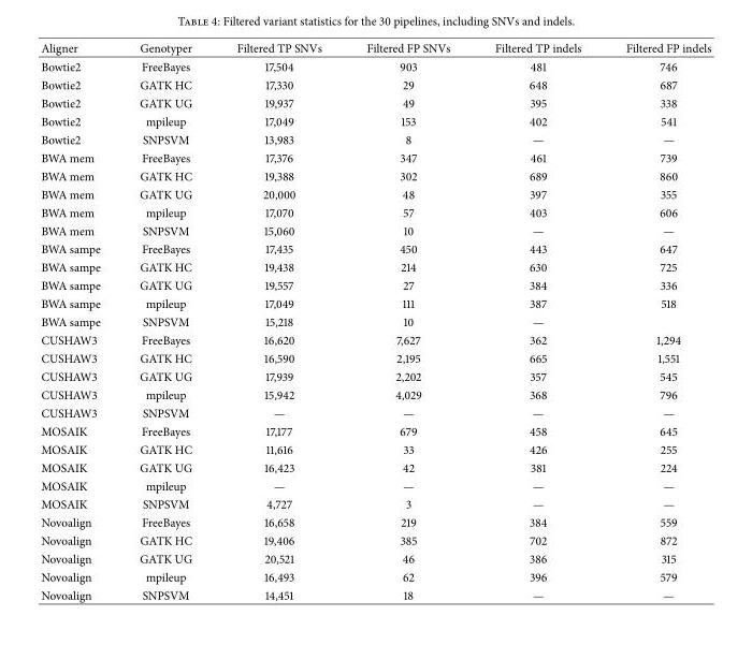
<table><thead><tr><td>Aligner</td><td>Genotyper</td><td>Filtered TP SNVs</td><td>Filtered FP SNVs</td><td>Filtered TP indels</td><td>Filtered FP indels</td></tr></thead><tbody><tr><td>Bowtie2</td><td>FreeBayes</td><td>17,504</td><td>903</td><td>481</td><td>746</td></tr><tr><td>Bowtie2</td><td>GATK HC</td><td>17,330</td><td>29</td><td>648</td><td>687</td></tr><tr><td>Bowtie2</td><td>GATK UG</td><td>19,937</td><td>49</td><td>395</td><td>338</td></tr><tr><td>Bowtie2</td><td>mpileup</td><td>17,049</td><td>153</td><td>402</td><td>541</td></tr><tr><td>Bowtie2</td><td>SNPSVM</td><td>13,983</td><td>8</td><td>—</td><td>—</td></tr><tr><td>BWA mem</td><td>FreeBayes</td><td>17,376</td><td>347</td><td>461</td><td>739</td></tr><tr><td>BWA mem</td><td>GATK HC</td><td>19,388</td><td>302</td><td>689</td><td>860</td></tr><tr><td>BWA mem</td><td>GATK UG</td><td>20,000</td><td>48</td><td>397</td><td>355</td></tr><tr><td>BWA mem</td><td>mpileup</td><td>17,070</td><td>57</td><td>403</td><td>606</td></tr><tr><td>BWA mem</td><td>SNPSVM</td><td>15,060</td><td>10</td><td>—</td><td>—</td></tr><tr><td>BWA sampe</td><td>FreeBayes</td><td>17,435</td><td>450</td><td>443</td><td>647</td></tr><tr><td>BWA sampe</td><td>GATK HC</td><td>19,438</td><td>214</td><td>630</td><td>725</td></tr><tr><td>BWA sampe</td><td>GATK UG</td><td>19,557</td><td>27</td><td>384</td><td>336</td></tr><tr><td>BWA sampe</td><td>mpileup</td><td>17,049</td><td>111</td><td>387</td><td>518</td></tr><tr><td>BWA sampe</td><td>SNPSVM</td><td>15,218</td><td>10</td><td>—</td><td></td></tr><tr><td>CUSHAW3</td><td>FreeBayes</td><td>16,620</td><td>7,627</td><td>362</td><td>1,294</td></tr><tr><td>CUSHAW3</td><td>GATK HC</td><td>16,590</td><td>2,195</td><td>665</td><td>1,551</td></tr><tr><td>CUSHAW3</td><td>GATK UG</td><td>17,939</td><td>2,202</td><td>357</td><td>545</td></tr><tr><td>CUSHAW3</td><td>mpileup</td><td>15,942</td><td>4,029</td><td>368</td><td>796</td></tr><tr><td>CUSHAW3</td><td>SNPSVM</td><td>—</td><td>—</td><td>—</td><td>—</td></tr><tr><td>MOSAIK</td><td>FreeBayes</td><td>17,177</td><td>679</td><td>458</td><td>645</td></tr><tr><td>MOSAIK</td><td>GATK HC</td><td>11,616</td><td>33</td><td>426</td><td>255</td></tr><tr><td>MOSAIK</td><td>GATK UG</td><td>16,423</td><td>42</td><td>381</td><td>224</td></tr><tr><td>MOSAIK</td><td>mpileup</td><td>—</td><td>—</td><td>—</td><td>—</td></tr><tr><td>MOSAIK</td><td>SNPSVM</td><td>4,727</td><td>3</td><td>—</td><td>—</td></tr><tr><td>Novoalign</td><td>FreeBayes</td><td>16,658</td><td>219</td><td>384</td><td>559</td></tr><tr><td>Novoalign</td><td>GATK HC</td><td>19,406</td><td>385</td><td>702</td><td>872</td></tr><tr><td>Novoalign</td><td>GATK UG</td><td>20,521</td><td>46</td><td>386</td><td>315</td></tr><tr><td>Novoalign</td><td>mpileup</td><td>16,493</td><td>62</td><td>396</td><td>579</td></tr><tr><td>Novoalign</td><td>SNPSVM</td><td>14,451</td><td>18</td><td>—</td><td>—</td></tr></tbody></table>